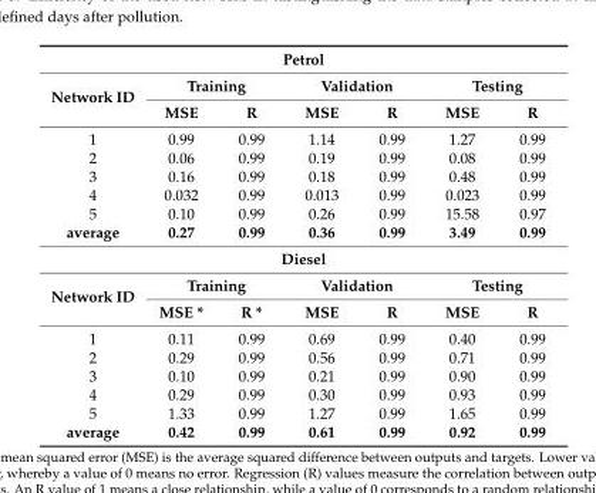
<table><tbody><tr><td colspan="7">Petrol</td></tr><tr><td rowspan="2">Network ID</td><td colspan="2">Training</td><td colspan="2">Validation</td><td colspan="2">Testing</td></tr><tr><td>MSE</td><td>R</td><td>MSE</td><td>R</td><td>MSE</td><td>R</td></tr><tr><td>1</td><td>0.99</td><td>0.99</td><td>1.14</td><td>0.99</td><td>1.27</td><td>0.99</td></tr><tr><td>2</td><td>0.06</td><td>0.99</td><td>0.19</td><td>0.99</td><td>0.08</td><td>0.99</td></tr><tr><td>3</td><td>0.16</td><td>0.99</td><td>0.18</td><td>0.99</td><td>0.48</td><td>0.99</td></tr><tr><td>4</td><td>0.032</td><td>0.99</td><td>0.013</td><td>0.99</td><td>0.023</td><td>0.99</td></tr><tr><td>5</td><td>0.10</td><td>0.99</td><td>0.26</td><td>0.99</td><td>15.58</td><td>0.97</td></tr><tr><td>average</td><td>0.27</td><td>0.99</td><td>0.36</td><td>0.99</td><td>3.49</td><td>0.99</td></tr><tr><td colspan="7">Diesel</td></tr><tr><td rowspan="2">Network ID</td><td colspan="2">Training</td><td colspan="2">Validation</td><td colspan="2">Testing</td></tr><tr><td>MSE *</td><td>R *</td><td>MSE</td><td>R</td><td>MSE</td><td>R</td></tr><tr><td>1</td><td>0.11</td><td>0.99</td><td>0.69</td><td>0.99</td><td>0.40</td><td>0.99</td></tr><tr><td>2</td><td>0.29</td><td>0.99</td><td>0.56</td><td>0.99</td><td>0.71</td><td>0.99</td></tr><tr><td>3</td><td>0.10</td><td>0.99</td><td>0.21</td><td>0.99</td><td>0.90</td><td>0.99</td></tr><tr><td>4</td><td>0.29</td><td>0.99</td><td>0.30</td><td>0.99</td><td>0.93</td><td>0.99</td></tr><tr><td>5</td><td>1.33</td><td>0.99</td><td>1.27</td><td>0.99</td><td>1.65</td><td>0.99</td></tr><tr><td>average</td><td>0.42</td><td>0.99</td><td>0.61</td><td>0.99</td><td>0.92</td><td>0.99</td></tr></tbody></table>